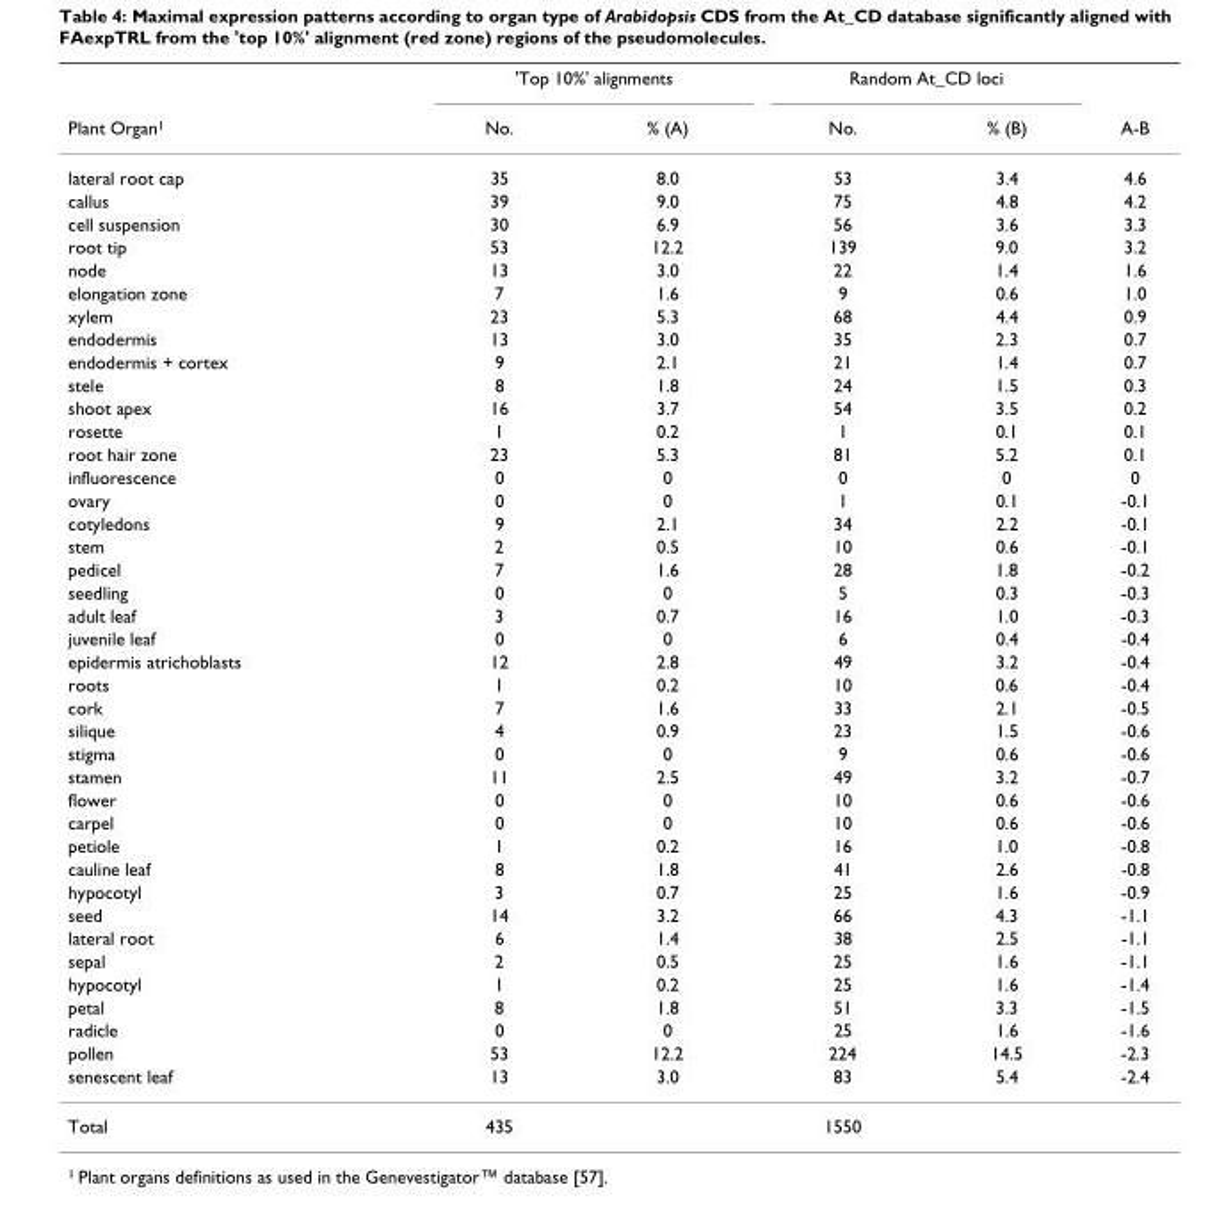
<table><thead><tr><td rowspan="2">Plant Organ<sup>1</sup></td><td colspan="2">&#x27;Top 10%&#x27; alignments</td><td colspan="2">Random At_CD loci</td><td rowspan="2">A-B</td></tr><tr><td>No.</td><td>% (A)</td><td>No.</td><td>% (B)</td></tr></thead><tbody><tr><td>lateral root cap</td><td>35</td><td>8.0</td><td>53</td><td>3.4</td><td>4.6</td></tr><tr><td>callus</td><td>39</td><td>9.0</td><td>75</td><td>4.8</td><td>4.2</td></tr><tr><td>cell suspension</td><td>30</td><td>6.9</td><td>56</td><td>3.6</td><td>3.3</td></tr><tr><td>root tip</td><td>53</td><td>12.2</td><td>139</td><td>9.0</td><td>3.2</td></tr><tr><td>node</td><td>13</td><td>3.0</td><td>22</td><td>1.4</td><td>1.6</td></tr><tr><td>elongation zone</td><td>7</td><td>1.6</td><td>9</td><td>0.6</td><td>1.0</td></tr><tr><td>xylem</td><td>23</td><td>5.3</td><td>68</td><td>4.4</td><td>0.9</td></tr><tr><td>endodermis</td><td>13</td><td>3.0</td><td>35</td><td>2.3</td><td>0.7</td></tr><tr><td>endodermis + cortex</td><td>9</td><td>2.1</td><td>21</td><td>1.4</td><td>0.7</td></tr><tr><td>stele</td><td>8</td><td>1.8</td><td>24</td><td>1.5</td><td>0.3</td></tr><tr><td>shoot apex</td><td>16</td><td>3.7</td><td>54</td><td>3.5</td><td>0.2</td></tr><tr><td>rosette</td><td>1</td><td>0.2</td><td>1</td><td>0.1</td><td>0.1</td></tr><tr><td>root hair zone</td><td>23</td><td>5.3</td><td>81</td><td>5.2</td><td>0.1</td></tr><tr><td>influorescence</td><td>0</td><td>0</td><td>0</td><td>0</td><td>0</td></tr><tr><td>ovary</td><td>0</td><td>0</td><td>1</td><td>0.1</td><td>-0.1</td></tr><tr><td>cotyledons</td><td>9</td><td>2.1</td><td>34</td><td>2.2</td><td>-0.1</td></tr><tr><td>stem</td><td>2</td><td>0.5</td><td>10</td><td>0.6</td><td>-0.1</td></tr><tr><td>pedicel</td><td>7</td><td>1.6</td><td>28</td><td>1.8</td><td>-0.2</td></tr><tr><td>seedling</td><td>0</td><td>0</td><td>5</td><td>0.3</td><td>-0.3</td></tr><tr><td>adult leaf</td><td>3</td><td>0.7</td><td>16</td><td>1.0</td><td>-0.3</td></tr><tr><td>juvenile leaf</td><td>0</td><td>0</td><td>6</td><td>0.4</td><td>-0.4</td></tr><tr><td>epidermis atrichoblasts</td><td>12</td><td>2.8</td><td>49</td><td>3.2</td><td>-0.4</td></tr><tr><td>roots</td><td>1</td><td>0.2</td><td>10</td><td>0.6</td><td>-0.4</td></tr><tr><td>cork</td><td>7</td><td>1.6</td><td>33</td><td>2.1</td><td>-0.5</td></tr><tr><td>silique</td><td>4</td><td>0.9</td><td>23</td><td>1.5</td><td>-0.6</td></tr><tr><td>stigma</td><td>0</td><td>0</td><td>9</td><td>0.6</td><td>-0.6</td></tr><tr><td>stamen</td><td>11</td><td>2.5</td><td>49</td><td>3.2</td><td>-0.7</td></tr><tr><td>flower</td><td>0</td><td>0</td><td>10</td><td>0.6</td><td>-0.6</td></tr><tr><td>carpel</td><td>0</td><td>0</td><td>10</td><td>0.6</td><td>-0.6</td></tr><tr><td>petiole</td><td>1</td><td>0.2</td><td>16</td><td>1.0</td><td>-0.8</td></tr><tr><td>cauline leaf</td><td>8</td><td>1.8</td><td>41</td><td>2.6</td><td>-0.8</td></tr><tr><td>hypocotyl</td><td>3</td><td>0.7</td><td>25</td><td>1.6</td><td>-0.9</td></tr><tr><td>seed</td><td>14</td><td>3.2</td><td>66</td><td>4.3</td><td>-1.1</td></tr><tr><td>lateral root</td><td>6</td><td>1.4</td><td>38</td><td>2.5</td><td>-1.1</td></tr><tr><td>sepal</td><td>2</td><td>0.5</td><td>25</td><td>1.6</td><td>-1.1</td></tr><tr><td>hypocotyl</td><td>1</td><td>0.2</td><td>25</td><td>1.6</td><td>-1.4</td></tr><tr><td>petal</td><td>8</td><td>1.8</td><td>51</td><td>3.3</td><td>-1.5</td></tr><tr><td>radicle</td><td>0</td><td>0</td><td>25</td><td>1.6</td><td>-1.6</td></tr><tr><td>pollen</td><td>53</td><td>12.2</td><td>224</td><td>14.5</td><td>-2.3</td></tr><tr><td>senescent leaf</td><td>13</td><td>3.0</td><td>83</td><td>5.4</td><td>-2.4</td></tr><tr><td>Total</td><td>435</td><td></td><td>1550</td><td></td><td></td></tr></tbody></table>